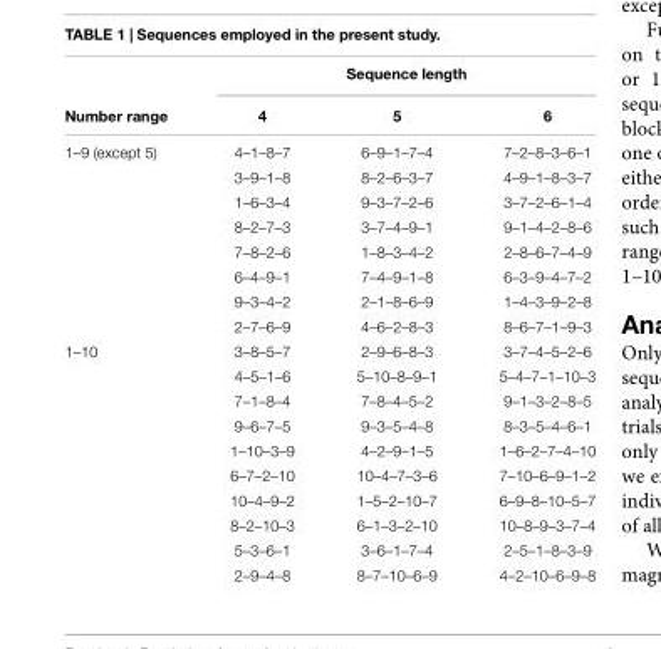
<table><thead><tr><td rowspan="2">Number range</td><td colspan="3">Sequence length</td></tr><tr><td>4</td><td>5</td><td>6</td></tr></thead><tbody><tr><td rowspan="8">1–9 (except 5)</td><td>4–1–8–7</td><td>6–9–1–7–4</td><td>7–2–8–3–6–1</td></tr><tr><td>3–9–1–8</td><td>8–2–6–3–7</td><td>4–9–1–8–3–7</td></tr><tr><td>1–6–3–4</td><td>9–3–7–2–6</td><td>3–7–2–6–1–4</td></tr><tr><td>8–2–7–3</td><td>3–7–4–9–1</td><td>9–1–4–2–8–6</td></tr><tr><td>7–8–2–6</td><td>1–8–3–4–2</td><td>2–8–6–7–4–9</td></tr><tr><td>6–4–9–1</td><td>7–4–9–1–8</td><td>6–3–9–4–7–2</td></tr><tr><td>9–3–4–2</td><td>2–1–8–6–9</td><td>1–4–3–9–2–8</td></tr><tr><td>2–7–6–9</td><td>4–6–2–8–3</td><td>8–6–7–1–9–3</td></tr><tr><td rowspan="10">1–10</td><td>3–8–5–7</td><td>2–9–6–8–3</td><td>3–7–4–5–2–6</td></tr><tr><td>4–5–1–6</td><td>5–10–8–9–1</td><td>5–4–7–1–10–3</td></tr><tr><td>7–1–8–4</td><td>7–8–4–5–2</td><td>9–1–3–2–8–5</td></tr><tr><td>9–6–7–5</td><td>9–3–5–4–8</td><td>8–3–5–4–6–1</td></tr><tr><td>1–10–3–9</td><td>4–2–9–1–5</td><td>1–6–2–7–4–10</td></tr><tr><td>6–7–2–10</td><td>10–4–7–3–6</td><td>7–10–6–9–1–2</td></tr><tr><td>10–4–9–2</td><td>1–5–2–10–7</td><td>6–9–8–10–5–7</td></tr><tr><td>8–2–10–3</td><td>6–1–3–2–10</td><td>10–8–9–3–7–4</td></tr><tr><td>5–3–6–1</td><td>3–6–1–7–4</td><td>2–5–1–8–3–9</td></tr><tr><td>2–9–4–8</td><td>8–7–10–6–9</td><td>4–2–10–6–9–8</td></tr></tbody></table>